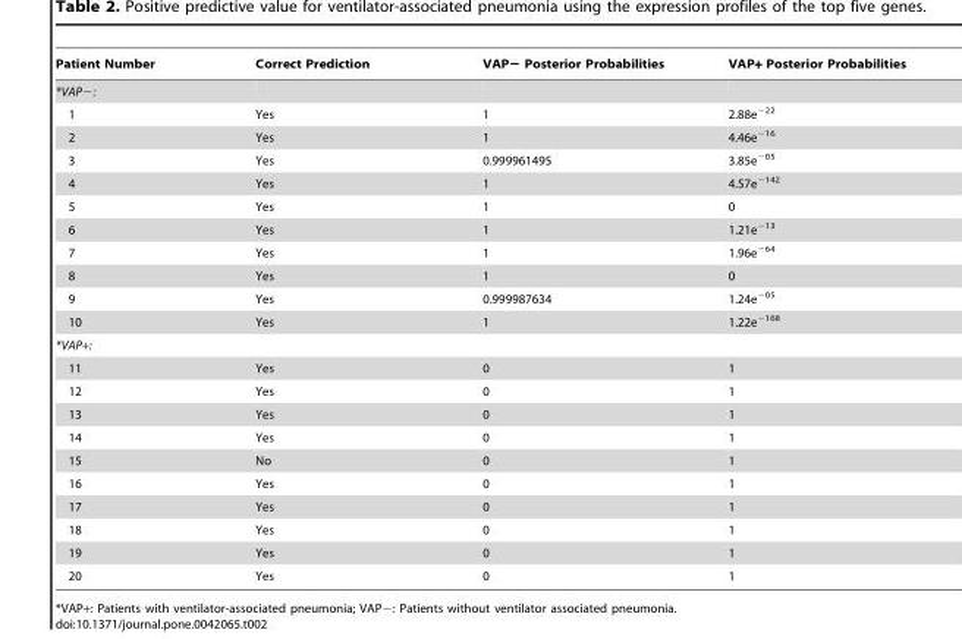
<table><thead><tr><td>Patient Number</td><td>Correct Prediction</td><td>VAP− Posterior Probabilities</td><td>VAP+ Posterior Probabilities</td></tr></thead><tbody><tr><td colspan="4">*VAP−:</td></tr><tr><td>1</td><td>Yes</td><td>1</td><td>2.88e<sup>−22</sup></td></tr><tr><td>2</td><td>Yes</td><td>1</td><td>4.46e<sup>−16</sup></td></tr><tr><td>3</td><td>Yes</td><td>0.999961495</td><td>3.85e<sup>−05</sup></td></tr><tr><td>4</td><td>Yes</td><td>1</td><td>4.57e<sup>−142</sup></td></tr><tr><td>5</td><td>Yes</td><td>1</td><td>0</td></tr><tr><td>6</td><td>Yes</td><td>1</td><td>1.21e<sup>−13</sup></td></tr><tr><td>7</td><td>Yes</td><td>1</td><td>1.96e<sup>−64</sup></td></tr><tr><td>8</td><td>Yes</td><td>1</td><td>0</td></tr><tr><td>9</td><td>Yes</td><td>0.999987634</td><td>1.24e<sup>−05</sup></td></tr><tr><td>10</td><td>Yes</td><td>1</td><td>1.22e<sup>−168</sup></td></tr><tr><td colspan="4">*VAP+:</td></tr><tr><td>11</td><td>Yes</td><td>0</td><td>1</td></tr><tr><td>12</td><td>Yes</td><td>0</td><td>1</td></tr><tr><td>13</td><td>Yes</td><td>0</td><td>1</td></tr><tr><td>14</td><td>Yes</td><td>0</td><td>1</td></tr><tr><td>15</td><td>No</td><td>0</td><td>1</td></tr><tr><td>16</td><td>Yes</td><td>0</td><td>1</td></tr><tr><td>17</td><td>Yes</td><td>0</td><td>1</td></tr><tr><td>18</td><td>Yes</td><td>0</td><td>1</td></tr><tr><td>19</td><td>Yes</td><td>0</td><td>1</td></tr><tr><td>20</td><td>Yes</td><td>0</td><td>1</td></tr></tbody></table>